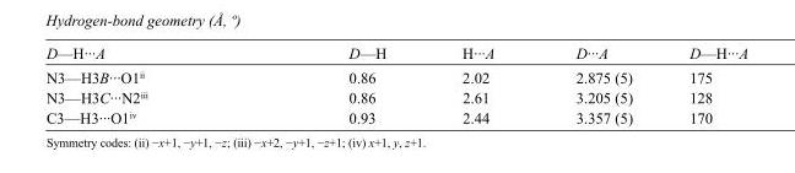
<table><tbody><tr><td>D—H···A</td><td>D—H</td><td>H···A</td><td>D···A</td><td>D—H···A</td></tr><tr><td>N3—H3B···O1<sup>ii</sup></td><td>0.86</td><td>2.02</td><td>2.875 (5)</td><td>175</td></tr><tr><td>N3—H3C···N2<sup>iii</sup></td><td>0.86</td><td>2.61</td><td>3.205 (5)</td><td>128</td></tr><tr><td>C3—H3···O1<sup>iv</sup></td><td>0.93</td><td>2.44</td><td>3.357 (5)</td><td>170</td></tr></tbody></table>